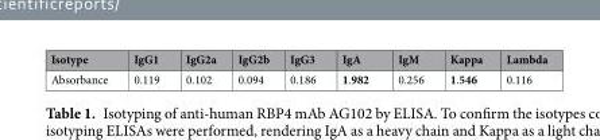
<table><thead><tr><td>Isotype</td><td>IgG1</td><td>IgG2a</td><td>IgG2b</td><td>IgG3</td><td>IgA</td><td>IgM</td><td>Kappa</td><td>Lambda</td></tr></thead><tbody><tr><td>Absorbance</td><td>0.119</td><td>0.102</td><td>0.094</td><td>0.186</td><td>1.982</td><td>0.256</td><td>1.546</td><td>0.116</td></tr></tbody></table>